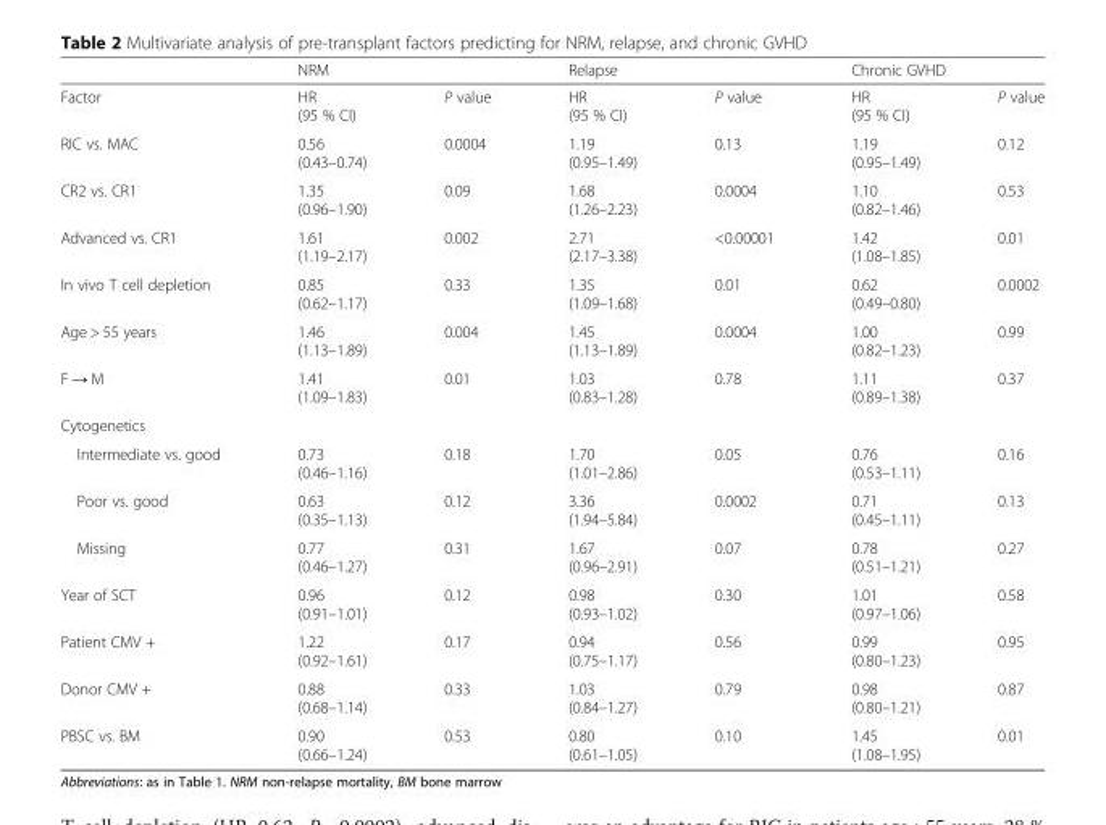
<table><thead><tr><td rowspan="2">Factor</td><td colspan="2">NRM</td><td colspan="2">Relapse</td><td colspan="2">Chronic GVHD</td></tr><tr><td>HR (95 % CI)</td><td>P value</td><td>HR (95 % CI)</td><td>P value</td><td>HR (95 % CI)</td><td>P value</td></tr></thead><tbody><tr><td>RIC vs. MAC</td><td>0.56 (0.43–0.74)</td><td>0.0004</td><td>1.19 (0.95–1.49)</td><td>0.13</td><td>1.19 (0.95–1.49)</td><td>0.12</td></tr><tr><td>CR2 vs. CR1</td><td>1.35 (0.96–1.90)</td><td>0.09</td><td>1.68 (1.26–2.23)</td><td>0.0004</td><td>1.10 (0.82–1.46)</td><td>0.53</td></tr><tr><td>Advanced vs. CR1</td><td>1.61 (1.19–2.17)</td><td>0.002</td><td>2.71 (2.17–3.38)</td><td>&lt;0.00001</td><td>1.42 (1.08–1.85)</td><td>0.01</td></tr><tr><td>In vivo T cell depletion</td><td>0.85 (0.62–1.17)</td><td>0.33</td><td>1.35 (1.09–1.68)</td><td>0.01</td><td>0.62 (0.49–0.80)</td><td>0.0002</td></tr><tr><td>Age &gt; 55 years</td><td>1.46 (1.13–1.89)</td><td>0.004</td><td>1.45 (1.13–1.89)</td><td>0.0004</td><td>1.00 (0.82–1.23)</td><td>0.99</td></tr><tr><td>F → M</td><td>1.41 (1.09–1.83)</td><td>0.01</td><td>1.03 (0.83–1.28)</td><td>0.78</td><td>1.11 (0.89–1.38)</td><td>0.37</td></tr><tr><td colspan="7">Cytogenetics</td></tr><tr><td>Intermediate vs. good</td><td>0.73 (0.46–1.16)</td><td>0.18</td><td>1.70 (1.01–2.86)</td><td>0.05</td><td>0.76 (0.53–1.11)</td><td>0.16</td></tr><tr><td>Poor vs. good</td><td>0.63 (0.35–1.13)</td><td>0.12</td><td>3.36 (1.94–5.84)</td><td>0.0002</td><td>0.71 (0.45–1.11)</td><td>0.13</td></tr><tr><td>Missing</td><td>0.77 (0.46–1.27)</td><td>0.31</td><td>1.67 (0.96–2.91)</td><td>0.07</td><td>0.78 (0.51–1.21)</td><td>0.27</td></tr><tr><td>Year of SCT</td><td>0.96 (0.91–1.01)</td><td>0.12</td><td>0.98 (0.93–1.02)</td><td>0.30</td><td>1.01 (0.97–1.06)</td><td>0.58</td></tr><tr><td>Patient CMV +</td><td>1.22 (0.92–1.61)</td><td>0.17</td><td>0.94 (0.75–1.17)</td><td>0.56</td><td>0.99 (0.80–1.23)</td><td>0.95</td></tr><tr><td>Donor CMV +</td><td>0.88 (0.68–1.14)</td><td>0.33</td><td>1.03 (0.84–1.27)</td><td>0.79</td><td>0.98 (0.80–1.21)</td><td>0.87</td></tr><tr><td>PBSC vs. BM</td><td>0.90 (0.66–1.24)</td><td>0.53</td><td>0.80 (0.61–1.05)</td><td>0.10</td><td>1.45 (1.08–1.95)</td><td>0.01</td></tr></tbody></table>